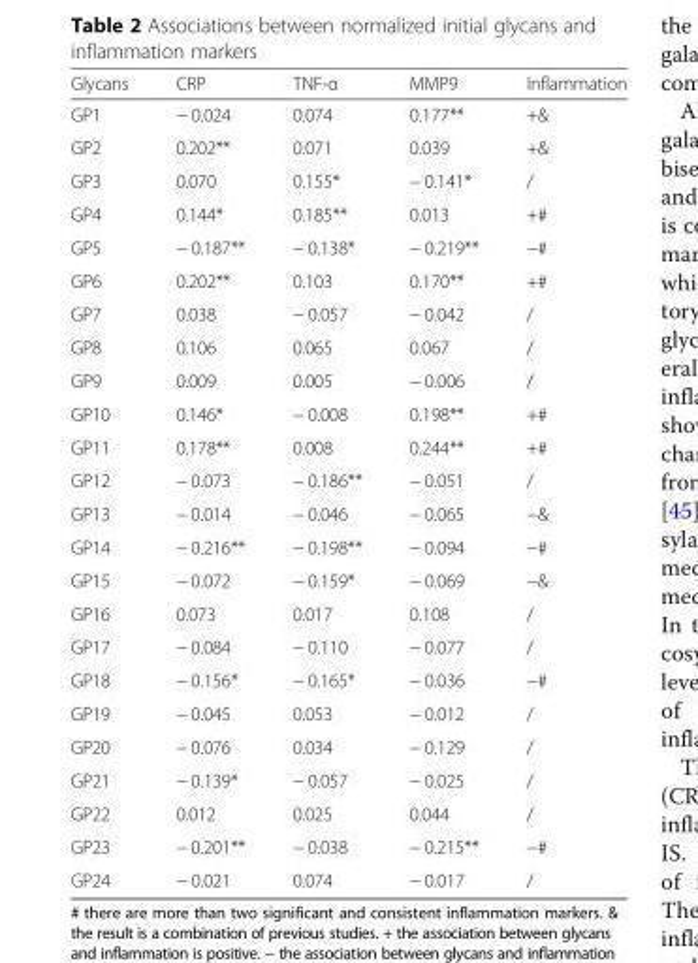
<table><thead><tr><td>Glycans</td><td>CRP</td><td>TNF-α</td><td>MMP9</td><td>Inflammation</td></tr></thead><tbody><tr><td>GP1</td><td>− 0.024</td><td>0.074</td><td>0.177**</td><td>+&amp;</td></tr><tr><td>GP2</td><td>0.202**</td><td>0.071</td><td>0.039</td><td>+&amp;</td></tr><tr><td>GP3</td><td>0.070</td><td>0.155*</td><td>− 0.141*</td><td>/</td></tr><tr><td>GP4</td><td>0.144*</td><td>0.185**</td><td>0.013</td><td>+#</td></tr><tr><td>GP5</td><td>− 0.187**</td><td>− 0.138*</td><td>− 0.219**</td><td>−#</td></tr><tr><td>GP6</td><td>0.202**</td><td>0.103</td><td>0.170**</td><td>+#</td></tr><tr><td>GP7</td><td>0.038</td><td>− 0.057</td><td>− 0.042</td><td>/</td></tr><tr><td>GP8</td><td>0.106</td><td>0.065</td><td>0.067</td><td>/</td></tr><tr><td>GP9</td><td>0.009</td><td>0.005</td><td>− 0.006</td><td>/</td></tr><tr><td>GP10</td><td>0.146*</td><td>− 0.008</td><td>0.198**</td><td>+#</td></tr><tr><td>GP11</td><td>0.178**</td><td>0.008</td><td>0.244**</td><td>+#</td></tr><tr><td>GP12</td><td>− 0.073</td><td>− 0.186**</td><td>− 0.051</td><td>/</td></tr><tr><td>GP13</td><td>− 0.014</td><td>− 0.046</td><td>− 0.065</td><td>−&amp;</td></tr><tr><td>GP14</td><td>− 0.216**</td><td>− 0.198**</td><td>− 0.094</td><td>−#</td></tr><tr><td>GP15</td><td>− 0.072</td><td>− 0.159*</td><td>− 0.069</td><td>−&amp;</td></tr><tr><td>GP16</td><td>0.073</td><td>0.017</td><td>0.108</td><td>/</td></tr><tr><td>GP17</td><td>− 0.084</td><td>− 0.110</td><td>− 0.077</td><td>/</td></tr><tr><td>GP18</td><td>− 0.156*</td><td>− 0.165*</td><td>− 0.036</td><td>−#</td></tr><tr><td>GP19</td><td>− 0.045</td><td>0.053</td><td>− 0.012</td><td>/</td></tr><tr><td>GP20</td><td>− 0.076</td><td>0.034</td><td>− 0.129</td><td>/</td></tr><tr><td>GP21</td><td>− 0.139*</td><td>− 0.057</td><td>− 0.025</td><td>/</td></tr><tr><td>GP22</td><td>0.012</td><td>0.025</td><td>0.044</td><td>/</td></tr><tr><td>GP23</td><td>− 0.201**</td><td>− 0.038</td><td>− 0.215**</td><td>−#</td></tr><tr><td>GP24</td><td>− 0.021</td><td>0.074</td><td>− 0.017</td><td>/</td></tr></tbody></table>